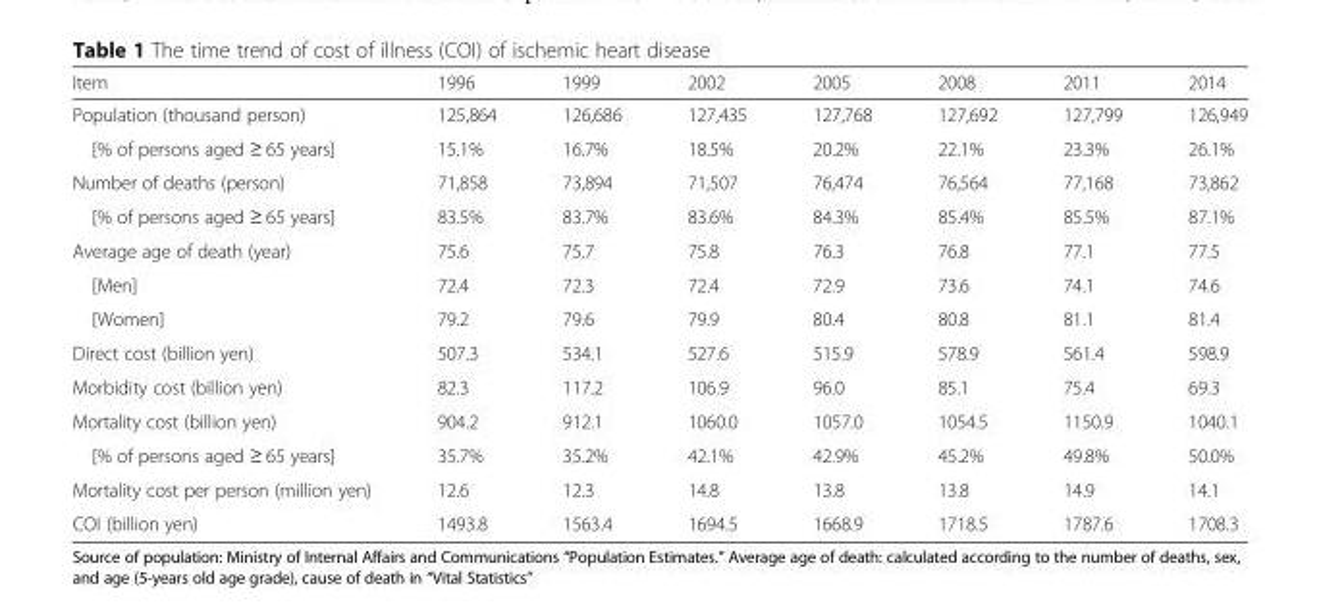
<table><thead><tr><td>Item</td><td>1996</td><td>1999</td><td>2002</td><td>2005</td><td>2008</td><td>2011</td><td>2014</td></tr></thead><tbody><tr><td>Population (thousand person)</td><td>125,864</td><td>126,686</td><td>127,435</td><td>127,768</td><td>127,692</td><td>127,799</td><td>126,949</td></tr><tr><td>[% of persons aged ≥ 65 years]</td><td>15.1%</td><td>16.7%</td><td>18.5%</td><td>20.2%</td><td>22.1%</td><td>23.3%</td><td>26.1%</td></tr><tr><td>Number of deaths (person)</td><td>71,858</td><td>73,894</td><td>71,507</td><td>76,474</td><td>76,564</td><td>77,168</td><td>73,862</td></tr><tr><td>[% of persons aged ≥ 65 years]</td><td>83.5%</td><td>83.7%</td><td>83.6%</td><td>84.3%</td><td>85.4%</td><td>85.5%</td><td>87.1%</td></tr><tr><td>Average age of death (year)</td><td>75.6</td><td>75.7</td><td>75.8</td><td>76.3</td><td>76.8</td><td>77.1</td><td>77.5</td></tr><tr><td>[Men]</td><td>72.4</td><td>72.3</td><td>72.4</td><td>72.9</td><td>73.6</td><td>74.1</td><td>74.6</td></tr><tr><td>[Women]</td><td>79.2</td><td>79.6</td><td>79.9</td><td>80.4</td><td>80.8</td><td>81.1</td><td>81.4</td></tr><tr><td>Direct cost (billion yen)</td><td>507.3</td><td>534.1</td><td>527.6</td><td>515.9</td><td>578.9</td><td>561.4</td><td>598.9</td></tr><tr><td>Morbidity cost (billion yen)</td><td>82.3</td><td>117.2</td><td>106.9</td><td>96.0</td><td>85.1</td><td>75.4</td><td>69.3</td></tr><tr><td>Mortality cost (billion yen)</td><td>904.2</td><td>912.1</td><td>1060.0</td><td>1057.0</td><td>1054.5</td><td>1150.9</td><td>1040.1</td></tr><tr><td>[% of persons aged ≥ 65 years]</td><td>35.7%</td><td>35.2%</td><td>42.1%</td><td>42.9%</td><td>45.2%</td><td>49.8%</td><td>50.0%</td></tr><tr><td>Mortality cost per person (million yen)</td><td>12.6</td><td>12.3</td><td>14.8</td><td>13.8</td><td>13.8</td><td>14.9</td><td>14.1</td></tr><tr><td>COI (billion yen)</td><td>1493.8</td><td>1563.4</td><td>1694.5</td><td>1668.9</td><td>1718.5</td><td>1787.6</td><td>1708.3</td></tr></tbody></table>